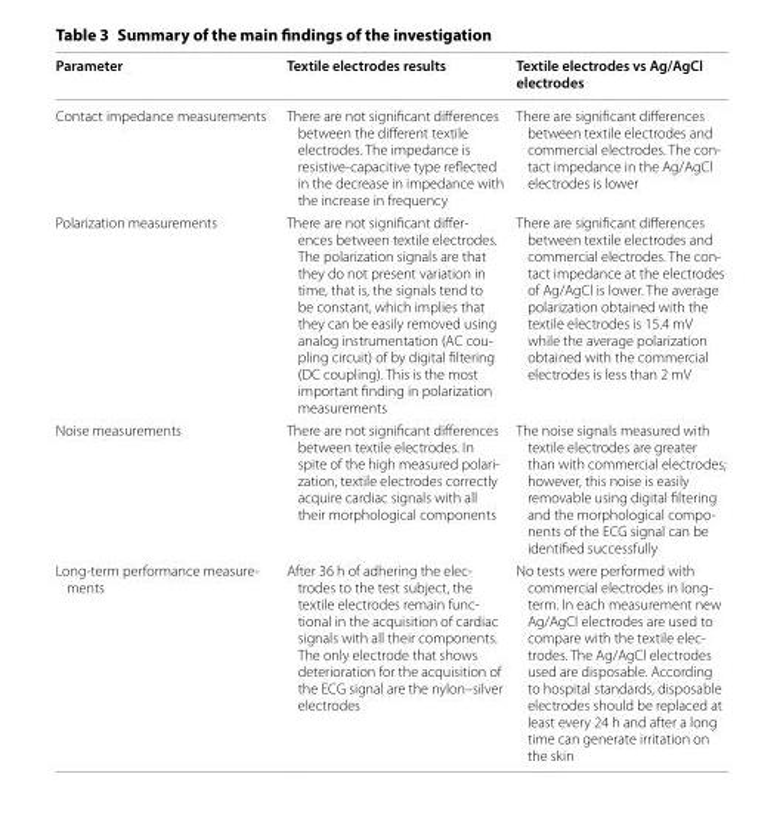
<table><thead><tr><td>Parameter</td><td>Textile electrodes results</td><td>Textile electrodes vs Ag/AgCl electrodes</td></tr></thead><tbody><tr><td>Contact impedance measurements</td><td>There are not significant differences between the different textile electrodes. The impedance is resistive‑capacitive type reflected in the decrease in impedance with the increase in frequency</td><td>There are significant differences between textile electrodes and commercial electrodes. The con‑ tact impedance in the Ag/AgCl electrodes is lower</td></tr><tr><td>Polarization measurements</td><td>There are not significant differ‑ ences between textile electrodes. The polarization signals are that they do not present variation in time, that is, the signals tend to be constant, which implies that they can be easily removed using analog instrumentation (AC cou‑ pling circuit) of by digital filtering (DC coupling). This is the most important finding in polarization measurements</td><td>There are significant differences between textile electrodes and commercial electrodes. The con‑ tact impedance at the electrodes of Ag/AgCl is lower. The average polarization obtained with the textile electrodes is 15.4 mV while the average polarization obtained with the commercial electrodes is less than 2 mV</td></tr><tr><td>Noise measurements</td><td>There are not significant differences between textile electrodes. In spite of the high measured polari‑ zation, textile electrodes correctly acquire cardiac signals with all their morphological components</td><td>The noise signals measured with textile electrodes are greater than with commercial electrodes; however, this noise is easily removable using digital filtering and the morphological compo‑ nents of the ECG signal can be identified successfully</td></tr><tr><td>Long‑term performance measure‑ ments</td><td>After 36 h of adhering the elec‑ trodes to the test subject, the textile electrodes remain func‑ tional in the acquisition of cardiac signals with all their components. The only electrode that shows deterioration for the acquisition of the ECG signal are the nylon–silver electrodes</td><td>No tests were performed with commercial electrodes in long‑ term. In each measurement new Ag/AgCl electrodes are used to compare with the textile elec‑ trodes. The Ag/AgCl electrodes used are disposable. According to hospital standards, disposable electrodes should be replaced at least every 24 h and after a long time can generate irritation on the skin</td></tr></tbody></table>